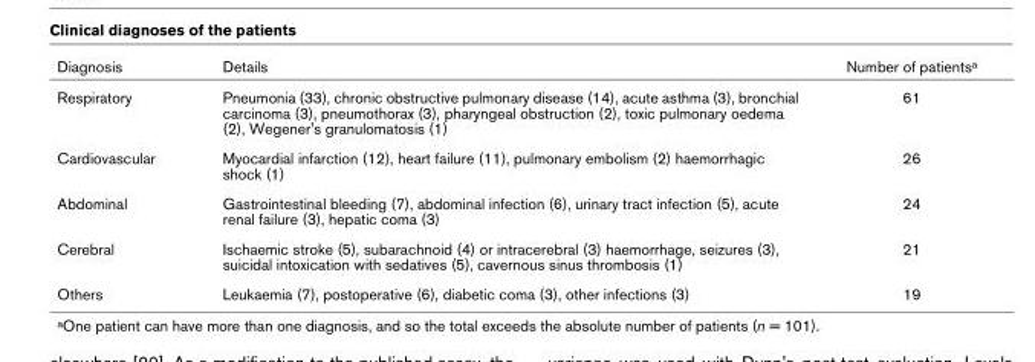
<table><thead><tr><td>Diagnosis</td><td>Details</td><td>Number of patientsa</td></tr></thead><tbody><tr><td>Respiratory</td><td>Pneumonia (33), chronic obstructive pulmonary disease (14), acute asthma (3), bronchial carcinoma (3), pneumothorax (3), pharyngeal obstruction (2), toxic pulmonary oedema (2), Wegener&#x27;s granulomatosis (1)</td><td>61</td></tr><tr><td>Cardiovascular</td><td>Myocardial infarction (12), heart failure (11), pulmonary embolism (2) haemorrhagic shock (1)</td><td>26</td></tr><tr><td>Abdominal</td><td>Gastrointestinal bleeding (7), abdominal infection (6), urinary tract infection (5), acute renal failure (3), hepatic coma (3)</td><td>24</td></tr><tr><td>Cerebral</td><td>Ischaemic stroke (5), subarachnoid (4) or intracerebral (3) haemorrhage, seizures (3), suicidal intoxication with sedatives (5), cavernous sinus thrombosis (1)</td><td>21</td></tr><tr><td>Others</td><td>Leukaemia (7), postoperative (6), diabetic coma (3), other infections (3)</td><td>19</td></tr></tbody></table>